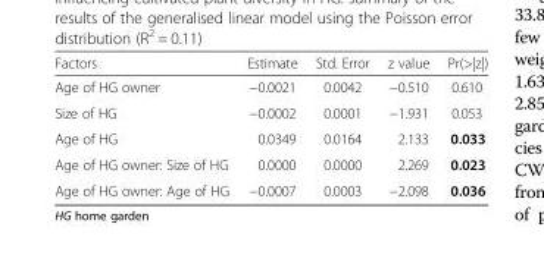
<table><thead><tr><td>Factors</td><td>Estimate</td><td>Std. Error</td><td>z value</td><td>Pr(&gt;|z|)</td></tr></thead><tbody><tr><td>Age of HG owner</td><td>−0.0021</td><td>0.0042</td><td>−0.510</td><td>0.610</td></tr><tr><td>Size of HG</td><td>−0.0002</td><td>0.0001</td><td>−1.931</td><td>0.053</td></tr><tr><td>Age of HG</td><td>0.0349</td><td>0.0164</td><td>2.133</td><td>0.033</td></tr><tr><td>Age of HG owner: Size of HG</td><td>0.0000</td><td>0.0000</td><td>2.269</td><td>0.023</td></tr><tr><td>Age of HG owner: Age of HG</td><td>−0.0007</td><td>0.0003</td><td>−2.098</td><td>0.036</td></tr></tbody></table>